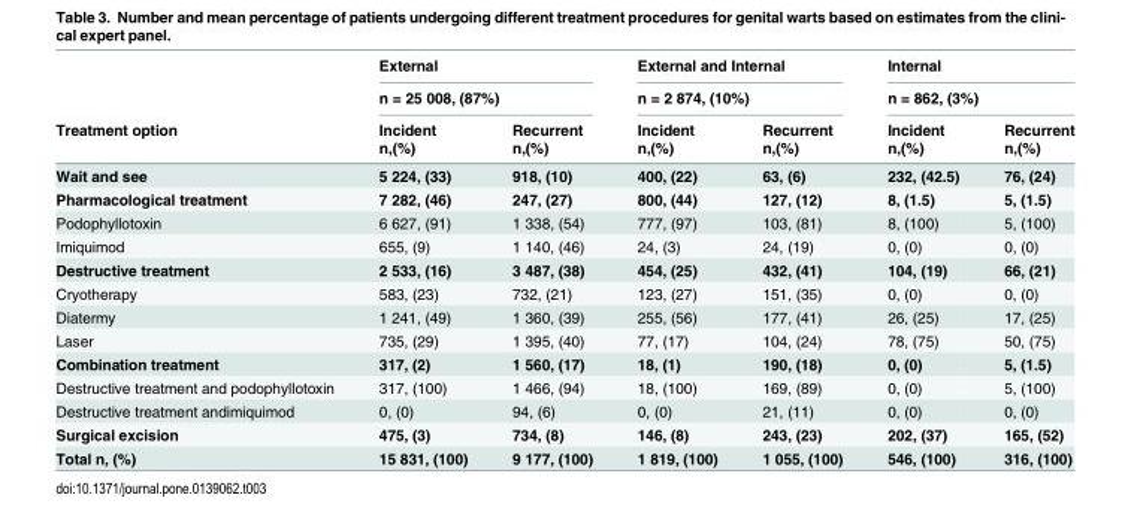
<table><thead><tr><td rowspan="4">Treatment option</td><td rowspan="2" colspan="2">External n = 25 008, (87%)</td><td rowspan="2" colspan="2">External and Internal n = 2 874, (10%)</td><td rowspan="2" colspan="2">Internal n = 862, (3%)</td></tr><tr></tr><tr><td rowspan="2">Incident n,(%)</td><td rowspan="2">Recurrent n,(%)</td><td rowspan="2">Incident n,(%)</td><td rowspan="2">Recurrent n,(%)</td><td rowspan="2">Incident n,(%)</td><td rowspan="2">Recurrent n,(%)</td></tr><tr></tr></thead><tbody><tr><td>Wait and see</td><td>5 224, (33)</td><td>918, (10)</td><td>400, (22)</td><td>63, (6)</td><td>232, (42.5)</td><td>76, (24)</td></tr><tr><td>Pharmacological treatment</td><td>7 282, (46)</td><td>247, (27)</td><td>800, (44)</td><td>127, (12)</td><td>8, (1.5)</td><td>5, (1.5)</td></tr><tr><td>Podophyllotoxin</td><td>6 627, (91)</td><td>1 338, (54)</td><td>777, (97)</td><td>103, (81)</td><td>8, (100)</td><td>5, (100)</td></tr><tr><td>Imiquimod</td><td>655, (9)</td><td>1 140, (46)</td><td>24, (3)</td><td>24, (19)</td><td>0, (0)</td><td>0, (0)</td></tr><tr><td>Destructive treatment</td><td>2 533, (16)</td><td>3 487, (38)</td><td>454, (25)</td><td>432, (41)</td><td>104, (19)</td><td>66, (21)</td></tr><tr><td>Cryotherapy</td><td>583, (23)</td><td>732, (21)</td><td>123, (27)</td><td>151, (35)</td><td>0, (0)</td><td>0, (0)</td></tr><tr><td>Diatermy</td><td>1 241, (49)</td><td>1 360, (39)</td><td>255, (56)</td><td>177, (41)</td><td>26, (25)</td><td>17, (25)</td></tr><tr><td>Laser</td><td>735, (29)</td><td>1 395, (40)</td><td>77, (17)</td><td>104, (24)</td><td>78, (75)</td><td>50, (75)</td></tr><tr><td>Combination treatment</td><td>317, (2)</td><td>1 560, (17)</td><td>18, (1)</td><td>190, (18)</td><td>0, (0)</td><td>5, (1.5)</td></tr><tr><td>Destructive treatment and podophyllotoxin</td><td>317, (100)</td><td>1 466, (94)</td><td>18, (100)</td><td>169, (89)</td><td>0, (0)</td><td>5, (100)</td></tr><tr><td>Destructive treatment andimiquimod</td><td>0, (0)</td><td>94, (6)</td><td>0, (0)</td><td>21, (11)</td><td>0, (0)</td><td>0, (0)</td></tr><tr><td>Surgical excision</td><td>475, (3)</td><td>734, (8)</td><td>146, (8)</td><td>243, (23)</td><td>202, (37)</td><td>165, (52)</td></tr><tr><td>Total n, (%)</td><td>15 831, (100)</td><td>9 177, (100)</td><td>1 819, (100)</td><td>1 055, (100)</td><td>546, (100)</td><td>316, (100)</td></tr></tbody></table>